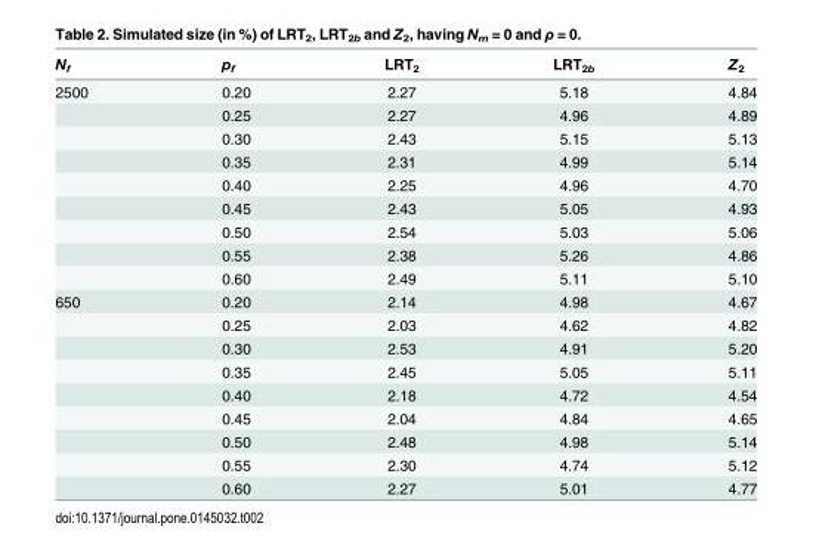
<table><thead><tr><td>N<sub>f</sub></td><td>p<sub>f</sub></td><td>LRT<sub>2</sub></td><td>LRT<sub>2b</sub></td><td>Z<sub>2</sub></td></tr></thead><tbody><tr><td rowspan="9">2500</td><td>0.20</td><td>2.27</td><td>5.18</td><td>4.84</td></tr><tr><td>0.25</td><td>2.27</td><td>4.96</td><td>4.89</td></tr><tr><td>0.30</td><td>2.43</td><td>5.15</td><td>5.13</td></tr><tr><td>0.35</td><td>2.31</td><td>4.99</td><td>5.14</td></tr><tr><td>0.40</td><td>2.25</td><td>4.96</td><td>4.70</td></tr><tr><td>0.45</td><td>2.43</td><td>5.05</td><td>4.93</td></tr><tr><td>0.50</td><td>2.54</td><td>5.03</td><td>5.06</td></tr><tr><td>0.55</td><td>2.38</td><td>5.26</td><td>4.86</td></tr><tr><td>0.60</td><td>2.49</td><td>5.11</td><td>5.10</td></tr><tr><td rowspan="9">650</td><td>0.20</td><td>2.14</td><td>4.98</td><td>4.67</td></tr><tr><td>0.25</td><td>2.03</td><td>4.62</td><td>4.82</td></tr><tr><td>0.30</td><td>2.53</td><td>4.91</td><td>5.20</td></tr><tr><td>0.35</td><td>2.45</td><td>5.05</td><td>5.11</td></tr><tr><td>0.40</td><td>2.18</td><td>4.72</td><td>4.54</td></tr><tr><td>0.45</td><td>2.04</td><td>4.84</td><td>4.65</td></tr><tr><td>0.50</td><td>2.48</td><td>4.98</td><td>5.14</td></tr><tr><td>0.55</td><td>2.30</td><td>4.74</td><td>5.12</td></tr><tr><td>0.60</td><td>2.27</td><td>5.01</td><td>4.77</td></tr></tbody></table>